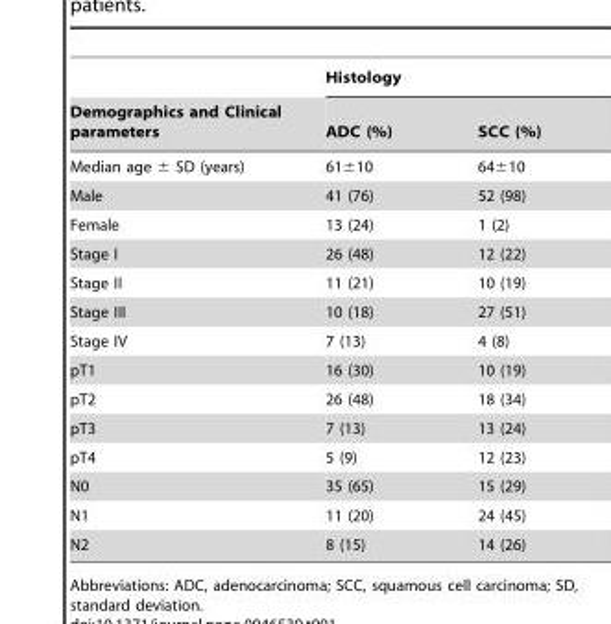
<table><thead><tr><td rowspan="2">Demographics and Clinical parameters</td><td colspan="2">Histology</td></tr><tr><td>ADC (%)</td><td>SCC (%)</td></tr></thead><tbody><tr><td>Median age ± SD (years)</td><td>61±10</td><td>64±10</td></tr><tr><td>Male</td><td>41 (76)</td><td>52 (98)</td></tr><tr><td>Female</td><td>13 (24)</td><td>1 (2)</td></tr><tr><td>Stage I</td><td>26 (48)</td><td>12 (22)</td></tr><tr><td>Stage II</td><td>11 (21)</td><td>10 (19)</td></tr><tr><td>Stage III</td><td>10 (18)</td><td>27 (51)</td></tr><tr><td>Stage IV</td><td>7 (13)</td><td>4 (8)</td></tr><tr><td>pT1</td><td>16 (30)</td><td>10 (19)</td></tr><tr><td>pT2</td><td>26 (48)</td><td>18 (34)</td></tr><tr><td>pT3</td><td>7 (13)</td><td>13 (24)</td></tr><tr><td>pT4</td><td>5 (9)</td><td>12 (23)</td></tr><tr><td>N0</td><td>35 (65)</td><td>15 (29)</td></tr><tr><td>N1</td><td>11 (20)</td><td>24 (45)</td></tr><tr><td>N2</td><td>8 (15)</td><td>14 (26)</td></tr></tbody></table>